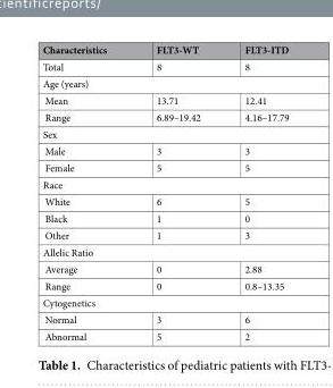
<table><thead><tr><td>Characteristics</td><td>FLT3-WT</td><td>FLT3-ITD</td></tr></thead><tbody><tr><td>Total</td><td>8</td><td>8</td></tr><tr><td colspan="3">Age (years)</td></tr><tr><td>Mean</td><td>13.71</td><td>12.41</td></tr><tr><td>Range</td><td>6.89–19.42</td><td>4.16–17.79</td></tr><tr><td colspan="3">Sex</td></tr><tr><td>Male</td><td>3</td><td>3</td></tr><tr><td>Female</td><td>5</td><td>5</td></tr><tr><td colspan="3">Race</td></tr><tr><td>White</td><td>6</td><td>5</td></tr><tr><td>Black</td><td>1</td><td>0</td></tr><tr><td>Other</td><td>1</td><td>3</td></tr><tr><td colspan="3">Allelic Ratio</td></tr><tr><td>Average</td><td>0</td><td>2.88</td></tr><tr><td>Range</td><td>0</td><td>0.8–13.35</td></tr><tr><td colspan="3">Cytogenetics</td></tr><tr><td>Normal</td><td>3</td><td>6</td></tr><tr><td>Abnormal</td><td>5</td><td>2</td></tr></tbody></table>